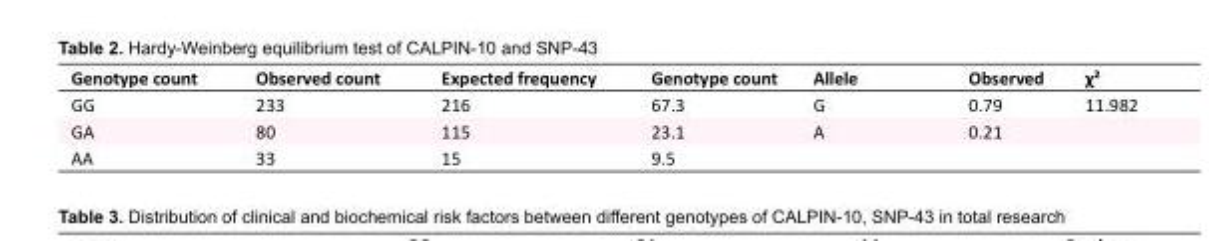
<table><tbody><tr><td>Genotype count</td><td>Observed count</td><td>Expected frequency</td><td>Genotype count</td><td>Allele</td><td>Observed</td><td>χ²</td></tr><tr><td>GG</td><td>233</td><td>216</td><td>67.3</td><td>G</td><td>0.79</td><td>11.982</td></tr><tr><td>GA</td><td>80</td><td>115</td><td>23.1</td><td>A</td><td>0.21</td><td></td></tr><tr><td>AA</td><td>33</td><td>15</td><td>9.5</td><td></td><td></td><td></td></tr></tbody></table>